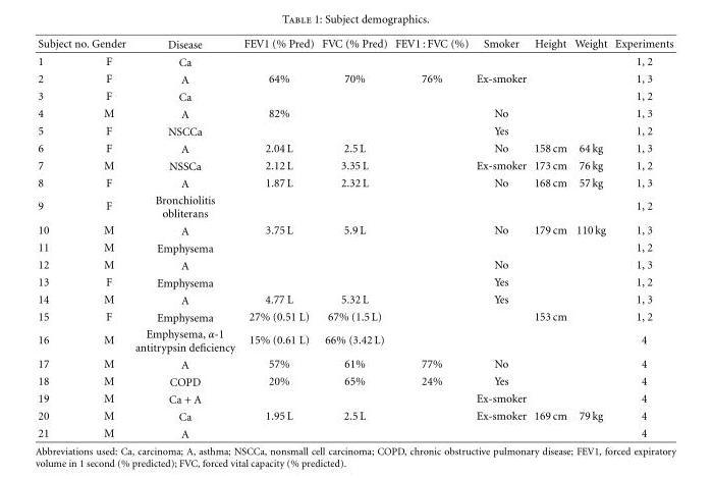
<table><thead><tr><td>Subject no.</td><td>Gender</td><td>Disease</td><td>FEV1 (% Pred)</td><td>FVC (% Pred)</td><td>FEV1 : FVC (%)</td><td>Smoker</td><td>Height</td><td>Weight</td><td>Experiments</td></tr></thead><tbody><tr><td>1</td><td>F</td><td>Ca</td><td></td><td></td><td></td><td></td><td></td><td></td><td>1, 2</td></tr><tr><td>2</td><td>F</td><td>A</td><td>64%</td><td>70%</td><td>76%</td><td>Ex-smoker</td><td></td><td></td><td>1, 3</td></tr><tr><td>3</td><td>F</td><td>Ca</td><td></td><td></td><td></td><td></td><td></td><td></td><td>1, 2</td></tr><tr><td>4</td><td>M</td><td>A</td><td>82%</td><td></td><td></td><td>No</td><td></td><td></td><td>1, 3</td></tr><tr><td>5</td><td>F</td><td>NSCCa</td><td></td><td></td><td></td><td>Yes</td><td></td><td></td><td>1, 2</td></tr><tr><td>6</td><td>F</td><td>A</td><td>2.04 L</td><td>2.5 L</td><td></td><td>No</td><td>158 cm</td><td>64 kg</td><td>1, 3</td></tr><tr><td>7</td><td>M</td><td>NSSCa</td><td>2.12 L</td><td>3.35 L</td><td></td><td>Ex-smoker</td><td>173 cm</td><td>76 kg</td><td>1, 2</td></tr><tr><td>8</td><td>F</td><td>A</td><td>1.87 L</td><td>2.32 L</td><td></td><td>No</td><td>168 cm</td><td>57 kg</td><td>1, 3</td></tr><tr><td>9</td><td>F</td><td>Bronchiolitis obliterans</td><td></td><td></td><td></td><td></td><td></td><td></td><td>1, 2</td></tr><tr><td>10</td><td>M</td><td>A</td><td>3.75 L</td><td>5.9 L</td><td></td><td>No</td><td>179 cm</td><td>110 kg</td><td>1, 3</td></tr><tr><td>11</td><td>M</td><td>Emphysema</td><td></td><td></td><td></td><td></td><td></td><td></td><td>1, 2</td></tr><tr><td>12</td><td>M</td><td>A</td><td></td><td></td><td></td><td>No</td><td></td><td></td><td>1, 3</td></tr><tr><td>13</td><td>F</td><td>Emphysema</td><td></td><td></td><td></td><td>Yes</td><td></td><td></td><td>1, 2</td></tr><tr><td>14</td><td>M</td><td>A</td><td>4.77 L</td><td>5.32 L</td><td></td><td>Yes</td><td></td><td></td><td>1, 3</td></tr><tr><td>15</td><td>F</td><td>Emphysema</td><td>27% (0.51 L)</td><td>67% (1.5 L)</td><td></td><td></td><td>153 cm</td><td></td><td>1, 2</td></tr><tr><td>16</td><td>M</td><td>Emphysema, α-1 antitrypsin deficiency</td><td>15% (0.61 L)</td><td>66% (3.42 L)</td><td></td><td></td><td></td><td></td><td>4</td></tr><tr><td>17</td><td>M</td><td>A</td><td>57%</td><td>61%</td><td>77%</td><td>No</td><td></td><td></td><td>4</td></tr><tr><td>18</td><td>M</td><td>COPD</td><td>20%</td><td>65%</td><td>24%</td><td>Yes</td><td></td><td></td><td>4</td></tr><tr><td>19</td><td>M</td><td>Ca + A</td><td></td><td></td><td></td><td>Ex-smoker</td><td></td><td></td><td>4</td></tr><tr><td>20</td><td>M</td><td>Ca</td><td>1.95 L</td><td>2.5 L</td><td></td><td>Ex-smoker</td><td>169 cm</td><td>79 kg</td><td>4</td></tr><tr><td>21</td><td>M</td><td>A</td><td></td><td></td><td></td><td></td><td></td><td></td><td>4</td></tr></tbody></table>